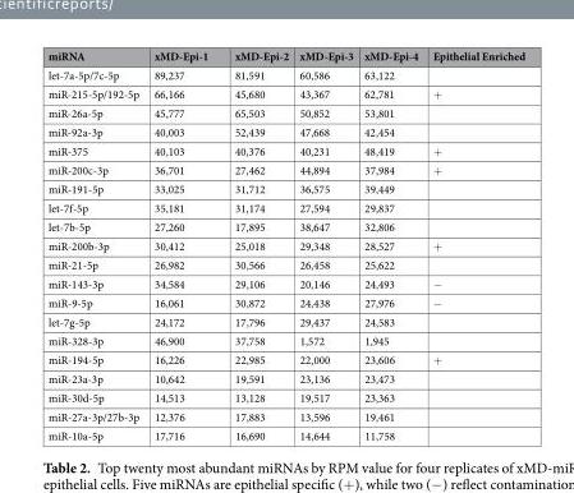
<table><thead><tr><td>miRNA</td><td>xMD-Epi-1</td><td>xMD-Epi-2</td><td>xMD-Epi-3</td><td>xMD-Epi-4</td><td>Epithelial Enriched</td></tr></thead><tbody><tr><td>let-7a-5p/7c-5p</td><td>89,237</td><td>81,591</td><td>60,586</td><td>63,122</td><td></td></tr><tr><td>miR-215-5p/192-5p</td><td>66,166</td><td>45,680</td><td>43,367</td><td>62,781</td><td>+</td></tr><tr><td>miR-26a-5p</td><td>45,777</td><td>65,503</td><td>50,852</td><td>53,801</td><td></td></tr><tr><td>miR-92a-3p</td><td>40,003</td><td>52,439</td><td>47,668</td><td>42,454</td><td></td></tr><tr><td>miR-375</td><td>40,103</td><td>40,376</td><td>40,231</td><td>48,419</td><td>+</td></tr><tr><td>miR-200c-3p</td><td>36,701</td><td>27,462</td><td>44,894</td><td>37,984</td><td>+</td></tr><tr><td>miR-191-5p</td><td>33,025</td><td>31,712</td><td>36,575</td><td>39,449</td><td></td></tr><tr><td>let-7f-5p</td><td>35,181</td><td>31,174</td><td>27,594</td><td>29,837</td><td></td></tr><tr><td>let-7b-5p</td><td>27,260</td><td>17,895</td><td>38,647</td><td>32,806</td><td></td></tr><tr><td>miR-200b-3p</td><td>30,412</td><td>25,018</td><td>29,348</td><td>28,527</td><td>+</td></tr><tr><td>miR-21-5p</td><td>26,982</td><td>30,566</td><td>26,458</td><td>25,622</td><td></td></tr><tr><td>miR-143-3p</td><td>34,584</td><td>29,106</td><td>20,146</td><td>24,493</td><td>−</td></tr><tr><td>miR-9-5p</td><td>16,061</td><td>30,872</td><td>24,438</td><td>27,976</td><td>−</td></tr><tr><td>let-7g-5p</td><td>24,172</td><td>17,796</td><td>29,437</td><td>24,583</td><td></td></tr><tr><td>miR-328-3p</td><td>46,900</td><td>37,758</td><td>1,572</td><td>1,945</td><td></td></tr><tr><td>miR-194-5p</td><td>16,226</td><td>22,985</td><td>22,000</td><td>23,606</td><td>+</td></tr><tr><td>miR-23a-3p</td><td>10,642</td><td>19,591</td><td>23,136</td><td>23,473</td><td></td></tr><tr><td>miR-30d-5p</td><td>14,513</td><td>13,128</td><td>19,517</td><td>23,363</td><td></td></tr><tr><td>miR-27a-3p/27b-3p</td><td>12,376</td><td>17,883</td><td>13,596</td><td>19,461</td><td></td></tr><tr><td>miR-10a-5p</td><td>17,716</td><td>16,690</td><td>14,644</td><td>11,758</td><td></td></tr></tbody></table>